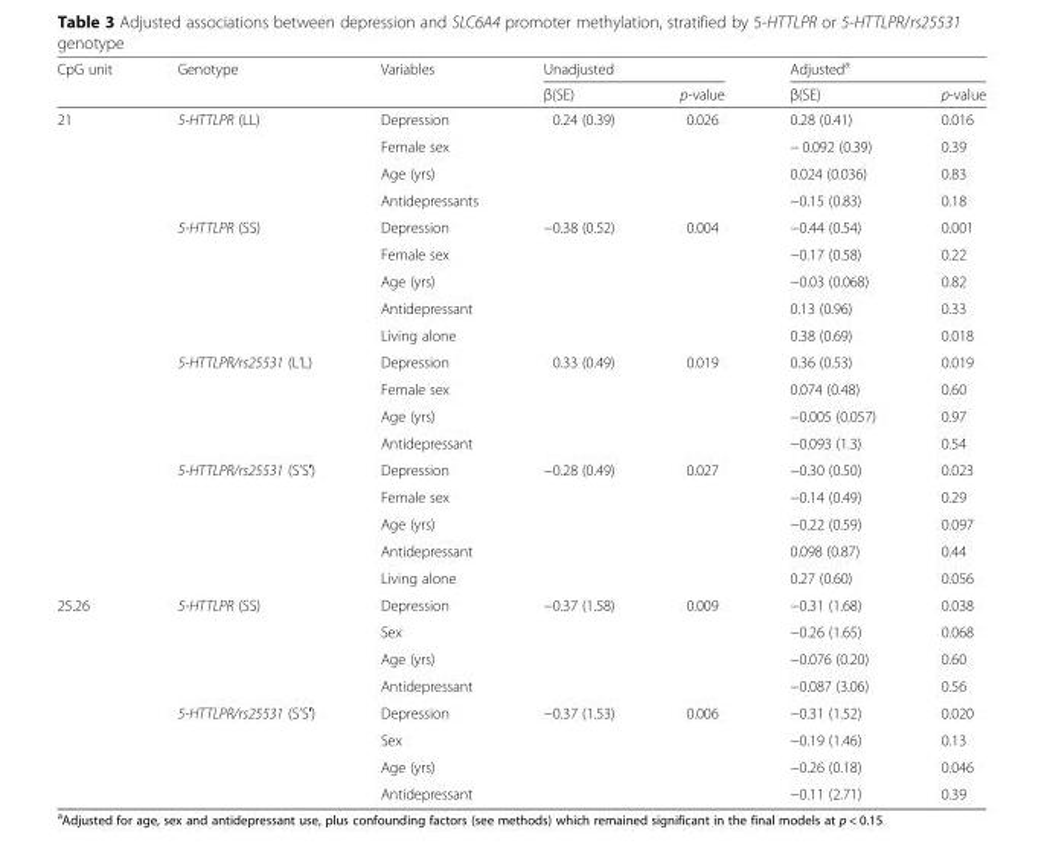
<table><thead><tr><td rowspan="2">CpG unit</td><td rowspan="2">Genotype</td><td rowspan="2">Variables</td><td colspan="2">Unadjusted</td><td colspan="2">Adjusted<sup>a</sup></td></tr><tr><td>β(SE)</td><td>p-value</td><td>β(SE)</td><td>p-value</td></tr></thead><tbody><tr><td rowspan="18">21</td><td>5-HTTLPR (LL)</td><td>Depression</td><td>0.24 (0.39)</td><td>0.026</td><td>0.28 (0.41)</td><td>0.016</td></tr><tr><td></td><td>Female sex</td><td></td><td></td><td>− 0.092 (0.39)</td><td>0.39</td></tr><tr><td></td><td>Age (yrs)</td><td></td><td></td><td>0.024 (0.036)</td><td>0.83</td></tr><tr><td></td><td>Antidepressants</td><td></td><td></td><td>−0.15 (0.83)</td><td>0.18</td></tr><tr><td>5-HTTLPR (SS)</td><td>Depression</td><td>−0.38 (0.52)</td><td>0.004</td><td>−0.44 (0.54)</td><td>0.001</td></tr><tr><td></td><td>Female sex</td><td></td><td></td><td>−0.17 (0.58)</td><td>0.22</td></tr><tr><td></td><td>Age (yrs)</td><td></td><td></td><td>−0.03 (0.068)</td><td>0.82</td></tr><tr><td></td><td>Antidepressant</td><td></td><td></td><td>0.13 (0.96)</td><td>0.33</td></tr><tr><td></td><td>Living alone</td><td></td><td></td><td>0.38 (0.69)</td><td>0.018</td></tr><tr><td>5-HTTLPR/rs25531 (L’L)</td><td>Depression</td><td>0.33 (0.49)</td><td>0.019</td><td>0.36 (0.53)</td><td>0.019</td></tr><tr><td></td><td>Female sex</td><td></td><td></td><td>0.074 (0.48)</td><td>0.60</td></tr><tr><td></td><td>Age (yrs)</td><td></td><td></td><td>−0.005 (0.057)</td><td>0.97</td></tr><tr><td></td><td>Antidepressant</td><td></td><td></td><td>−0.093 (1.3)</td><td>0.54</td></tr><tr><td>5-HTTLPR/rs25531 (S’S′)</td><td>Depression</td><td>−0.28 (0.49)</td><td>0.027</td><td>−0.30 (0.50)</td><td>0.023</td></tr><tr><td></td><td>Female sex</td><td></td><td></td><td>−0.14 (0.49)</td><td>0.29</td></tr><tr><td></td><td>Age (yrs)</td><td></td><td></td><td>−0.22 (0.59)</td><td>0.097</td></tr><tr><td></td><td>Antidepressant</td><td></td><td></td><td>0.098 (0.87)</td><td>0.44</td></tr><tr><td></td><td>Living alone</td><td></td><td></td><td>0.27 (0.60)</td><td>0.056</td></tr><tr><td rowspan="8">25.26</td><td>5-HTTLPR (SS)</td><td>Depression</td><td>−0.37 (1.58)</td><td>0.009</td><td>−0.31 (1.68)</td><td>0.038</td></tr><tr><td></td><td>Sex</td><td></td><td></td><td>−0.26 (1.65)</td><td>0.068</td></tr><tr><td></td><td>Age (yrs)</td><td></td><td></td><td>−0.076 (0.20)</td><td>0.60</td></tr><tr><td></td><td>Antidepressant</td><td></td><td></td><td>−0.087 (3.06)</td><td>0.56</td></tr><tr><td>5-HTTLPR/rs25531 (S’S′)</td><td>Depression</td><td>−0.37 (1.53)</td><td>0.006</td><td>−0.31 (1.52)</td><td>0.020</td></tr><tr><td></td><td>Sex</td><td></td><td></td><td>−0.19 (1.46)</td><td>0.13</td></tr><tr><td></td><td>Age (yrs)</td><td></td><td></td><td>−0.26 (0.18)</td><td>0.046</td></tr><tr><td></td><td>Antidepressant</td><td></td><td></td><td>−0.11 (2.71)</td><td>0.39</td></tr></tbody></table>